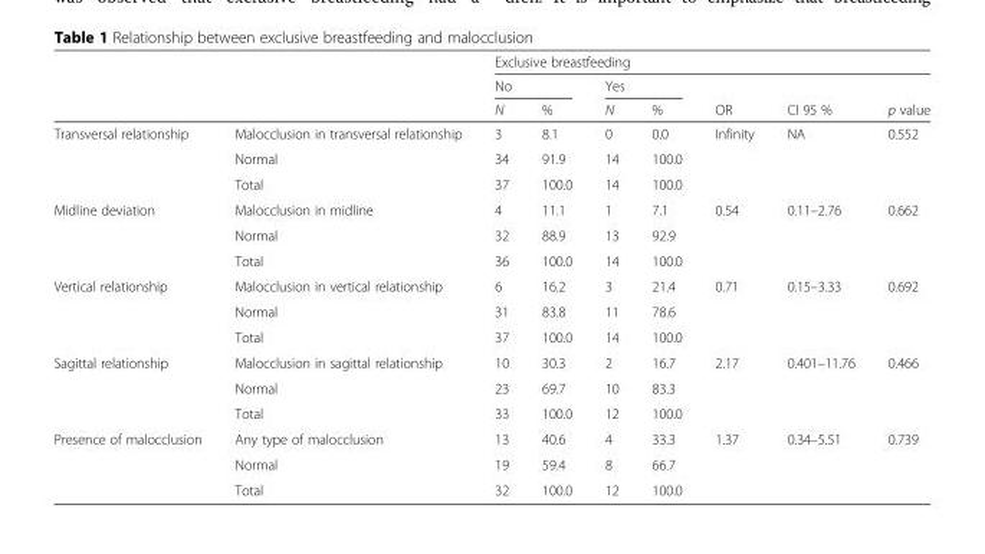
<table><thead><tr><td rowspan="3"></td><td rowspan="3"></td><td colspan="7">Exclusive breastfeeding</td></tr><tr><td colspan="2">No</td><td colspan="2">Yes</td><td rowspan="2">OR</td><td rowspan="2">CI 95 %</td><td rowspan="2">p value</td></tr><tr><td>N</td><td>%</td><td>N</td><td>%</td></tr></thead><tbody><tr><td rowspan="3">Transversal relationship</td><td>Malocclusion in transversal relationship</td><td>3</td><td>8.1</td><td>0</td><td>0.0</td><td>Infinity</td><td>NA</td><td>0.552</td></tr><tr><td>Normal</td><td>34</td><td>91.9</td><td>14</td><td>100.0</td><td></td><td></td><td></td></tr><tr><td>Total</td><td>37</td><td>100.0</td><td>14</td><td>100.0</td><td></td><td></td><td></td></tr><tr><td rowspan="3">Midline deviation</td><td>Malocclusion in midline</td><td>4</td><td>11.1</td><td>1</td><td>7.1</td><td>0.54</td><td>0.11–2.76</td><td>0.662</td></tr><tr><td>Normal</td><td>32</td><td>88.9</td><td>13</td><td>92.9</td><td></td><td></td><td></td></tr><tr><td>Total</td><td>36</td><td>100.0</td><td>14</td><td>100.0</td><td></td><td></td><td></td></tr><tr><td rowspan="3">Vertical relationship</td><td>Malocclusion in vertical relationship</td><td>6</td><td>16.2</td><td>3</td><td>21.4</td><td>0.71</td><td>0.15–3.33</td><td>0.692</td></tr><tr><td>Normal</td><td>31</td><td>83.8</td><td>11</td><td>78.6</td><td></td><td></td><td></td></tr><tr><td>Total</td><td>37</td><td>100.0</td><td>14</td><td>100.0</td><td></td><td></td><td></td></tr><tr><td rowspan="3">Sagittal relationship</td><td>Malocclusion in sagittal relationship</td><td>10</td><td>30.3</td><td>2</td><td>16.7</td><td>2.17</td><td>0.401–11.76</td><td>0.466</td></tr><tr><td>Normal</td><td>23</td><td>69.7</td><td>10</td><td>83.3</td><td></td><td></td><td></td></tr><tr><td>Total</td><td>33</td><td>100.0</td><td>12</td><td>100.0</td><td></td><td></td><td></td></tr><tr><td rowspan="3">Presence of malocclusion</td><td>Any type of malocclusion</td><td>13</td><td>40.6</td><td>4</td><td>33.3</td><td>1.37</td><td>0.34–5.51</td><td>0.739</td></tr><tr><td>Normal</td><td>19</td><td>59.4</td><td>8</td><td>66.7</td><td></td><td></td><td></td></tr><tr><td>Total</td><td>32</td><td>100.0</td><td>12</td><td>100.0</td><td></td><td></td><td></td></tr></tbody></table>